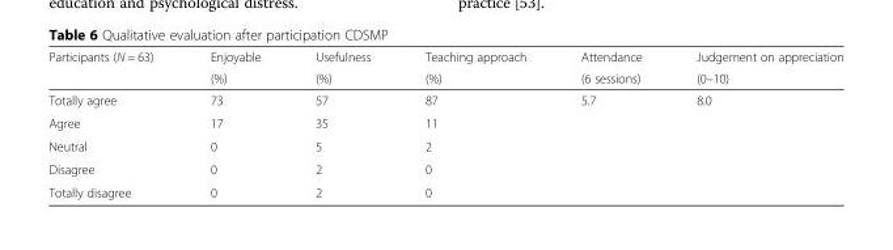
<table><thead><tr><td rowspan="2">Participants (N = 63)</td><td rowspan="2">Enjoyable (%)</td><td rowspan="2">Usefulness (%)</td><td rowspan="2">Teaching approach (%)</td><td rowspan="2">Attendance (6 sessions)</td><td rowspan="2">Judgement on appreciation (0–10)</td></tr><tr></tr></thead><tbody><tr><td>Totally agree</td><td>73</td><td>57</td><td>87</td><td rowspan="5">5.7</td><td rowspan="5">8.0</td></tr><tr><td>Agree</td><td>17</td><td>35</td><td>11</td></tr><tr><td>Neutral</td><td>0</td><td>5</td><td>2</td></tr><tr><td>Disagree</td><td>0</td><td>2</td><td>0</td></tr><tr><td>Totally disagree</td><td>0</td><td>2</td><td>0</td></tr></tbody></table>